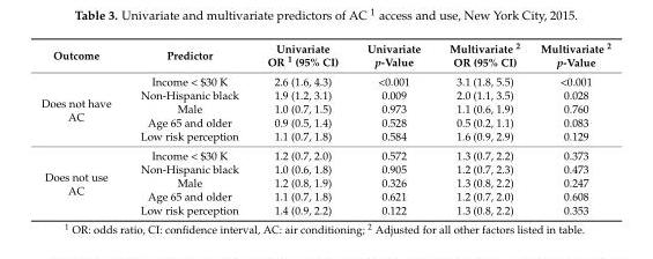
<table><thead><tr><td>Outcome</td><td>Predictor</td><td>Univariate OR <sup>1</sup> (95% CI)</td><td>Univariate p-Value</td><td>Multivariate <sup>2</sup> OR (95% CI)</td><td>Multivariate <sup>2</sup> p-Value</td></tr></thead><tbody><tr><td rowspan="5">Does not have AC</td><td>Income &lt; $30 K</td><td>2.6 (1.6, 4.3)</td><td>&lt;0.001</td><td>3.1 (1.8, 5.5)</td><td>&lt;0.001</td></tr><tr><td>Non-Hispanic black</td><td>1.9 (1.2, 3.1)</td><td>0.009</td><td>2.0 (1.1, 3.5)</td><td>0.028</td></tr><tr><td>Male</td><td>1.0 (0.7, 1.5)</td><td>0.973</td><td>1.1 (0.6, 1.9)</td><td>0.760</td></tr><tr><td>Age 65 and older</td><td>0.9 (0.5, 1.4)</td><td>0.528</td><td>0.5 (0.2, 1.1)</td><td>0.083</td></tr><tr><td>Low risk perception</td><td>1.1 (0.7, 1.8)</td><td>0.584</td><td>1.6 (0.9, 2.9)</td><td>0.129</td></tr><tr><td rowspan="5">Does not use AC</td><td>Income &lt; $30 K</td><td>1.2 (0.7, 2.0)</td><td>0.572</td><td>1.3 (0.7, 2.2)</td><td>0.373</td></tr><tr><td>Non-Hispanic black</td><td>1.0 (0.6, 1.8)</td><td>0.905</td><td>1.2 (0.7, 2.3)</td><td>0.473</td></tr><tr><td>Male</td><td>1.2 (0.8, 1.9)</td><td>0.326</td><td>1.3 (0.8, 2.2)</td><td>0.247</td></tr><tr><td>Age 65 and older</td><td>1.1 (0.7, 1.8)</td><td>0.621</td><td>1.2 (0.7, 2.0)</td><td>0.608</td></tr><tr><td>Low risk perception</td><td>1.4 (0.9, 2.2)</td><td>0.122</td><td>1.3 (0.8, 2.2)</td><td>0.353</td></tr></tbody></table>